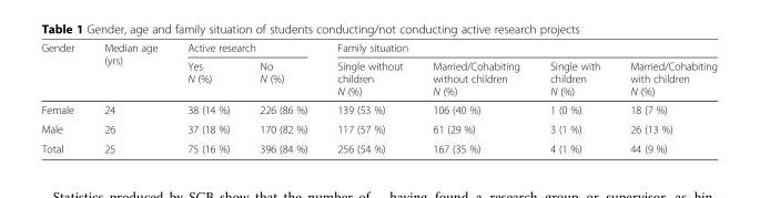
<table><thead><tr><td rowspan="2">Gender</td><td rowspan="2">Median age (yrs)</td><td colspan="2">Active research</td><td colspan="4">Family situation</td></tr><tr><td>Yes N (%)</td><td>No N (%)</td><td>Single without children N (%)</td><td>Married/Cohabiting without children N (%)</td><td>Single with children N (%)</td><td>Married/Cohabiting with children N (%)</td></tr></thead><tbody><tr><td>Female</td><td>24</td><td>38 (14 %)</td><td>226 (86 %)</td><td>139 (53 %)</td><td>106 (40 %)</td><td>1 (0 %)</td><td>18 (7 %)</td></tr><tr><td>Male</td><td>26</td><td>37 (18 %)</td><td>170 (82 %)</td><td>117 (57 %)</td><td>61 (29 %)</td><td>3 (1 %)</td><td>26 (13 %)</td></tr><tr><td>Total</td><td>25</td><td>75 (16 %)</td><td>396 (84 %)</td><td>256 (54 %)</td><td>167 (35 %)</td><td>4 (1 %)</td><td>44 (9 %)</td></tr></tbody></table>